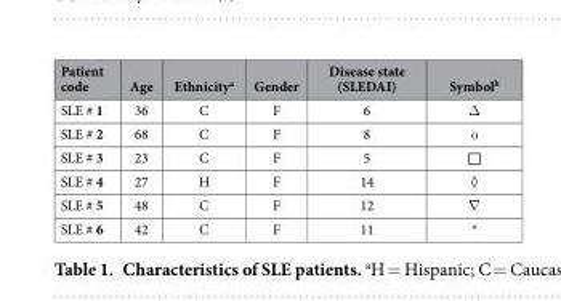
<table><thead><tr><td>Patient code</td><td>Age</td><td>Ethnicity<sup>a</sup></td><td>Gender</td><td>Disease state (SLEDAI)</td><td>Symbol<sup>b</sup></td></tr></thead><tbody><tr><td>SLE # 1</td><td>36</td><td>C</td><td>F</td><td>6</td><td>Δ</td></tr><tr><td>SLE # 2</td><td>68</td><td>C</td><td>F</td><td>8</td><td>ο</td></tr><tr><td>SLE # 3</td><td>23</td><td>C</td><td>F</td><td>5</td><td>□</td></tr><tr><td>SLE # 4</td><td>27</td><td>H</td><td>F</td><td>14</td><td>◊</td></tr><tr><td>SLE # 5</td><td>48</td><td>C</td><td>F</td><td>12</td><td>∇</td></tr><tr><td>SLE # 6</td><td>42</td><td>C</td><td>F</td><td>11</td><td>*</td></tr></tbody></table>